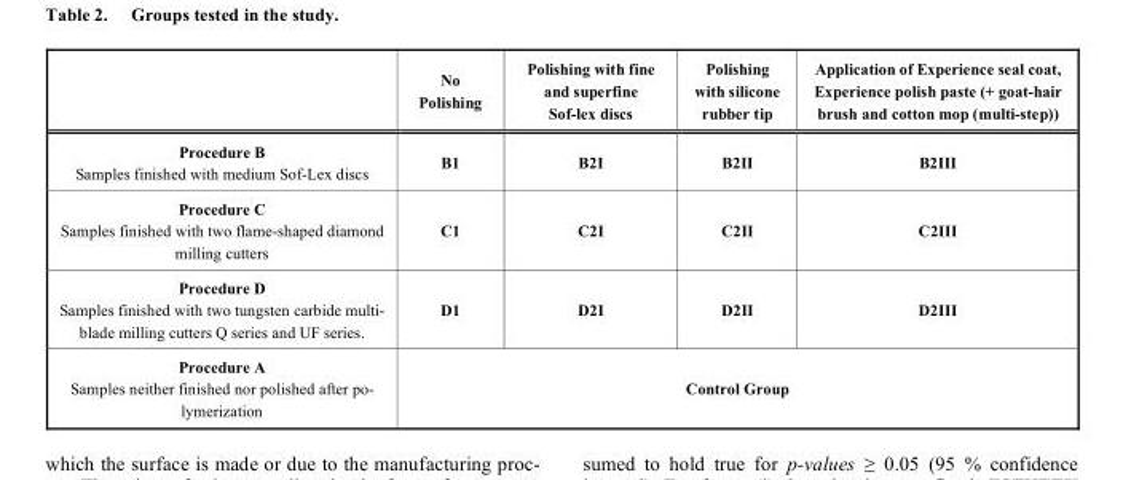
<table><thead><tr><td></td><td>No Polishing</td><td>Polishing with fine and superfine Sof-lex discs</td><td>Polishing with silicone rubber tip</td><td>Application of Experience seal coat, Experience polish paste (+ goat-hair brush and cotton mop (multi-step))</td></tr></thead><tbody><tr><td>Procedure B Samples finished with medium Sof-Lex discs</td><td>B1</td><td>B2I</td><td>B2II</td><td>B2III</td></tr><tr><td>Procedure C Samples finished with two flame-shaped diamond milling cutters</td><td>C1</td><td>C2I</td><td>C2II</td><td>C2III</td></tr><tr><td>Procedure D Samples finished with two tungsten carbide multi- blade milling cutters Q series and UF series.</td><td>D1</td><td>D2I</td><td>D2II</td><td>D2III</td></tr><tr><td>Procedure A Samples neither finished nor polished after po- lymerization</td><td colspan="4">Control Group</td></tr></tbody></table>